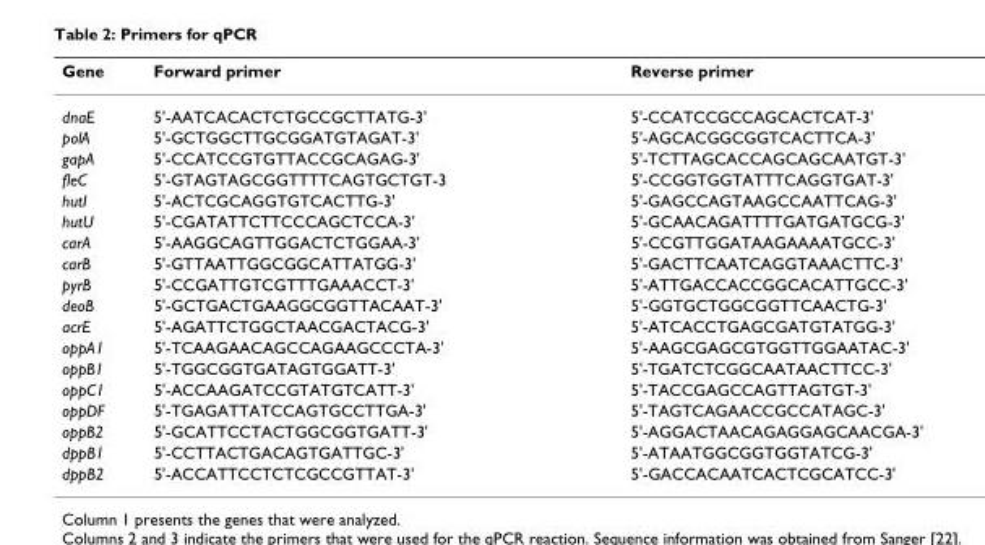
<table><thead><tr><td>Gene</td><td>Forward primer</td><td>Reverse primer</td></tr></thead><tbody><tr><td>dnaE</td><td>5&#x27;-AATCACACTCTGCCGCTTATG-3&#x27;</td><td>5&#x27;-CCATCCGCCAGCACTCAT-3&#x27;</td></tr><tr><td>polA</td><td>5&#x27;-GCTGGCTTGCGGATGTAGAT-3&#x27;</td><td>5&#x27;-AGCACGGCGGTCACTTCA-3&#x27;</td></tr><tr><td>gapA</td><td>5&#x27;-CCATCCGTGTTACCGCAGAG-3&#x27;</td><td>5&#x27;-TCTTAGCACCAGCAGCAATGT-3&#x27;</td></tr><tr><td>fleC</td><td>5&#x27;-GTAGTAGCGGTTTTCAGTGCTGT-3</td><td>5&#x27;-CCGGTGGTATTTCAGGTGAT-3&#x27;</td></tr><tr><td>hutI</td><td>5&#x27;-ACTCGCAGGTGTCACTTG-3&#x27;</td><td>5&#x27;-GAGCCAGTAAGCCAATTCAG-3&#x27;</td></tr><tr><td>hutU</td><td>5&#x27;-CGATATTCTTCCCAGCTCCA-3&#x27;</td><td>5&#x27;-GCAACAGATTTTGATGATGCG-3&#x27;</td></tr><tr><td>carA</td><td>5&#x27;-AAGGCAGTTGGACTCTGGAA-3&#x27;</td><td>5&#x27;-CCGTTGGATAAGAAAATGCC-3&#x27;</td></tr><tr><td>carB</td><td>5&#x27;-GTTAATTGGCGGCATTATGG-3&#x27;</td><td>5&#x27;-GACTTCAATCAGGTAAACTTC-3&#x27;</td></tr><tr><td>pyrB</td><td>5&#x27;-CCGATTGTCGTTTGAAACCT-3&#x27;</td><td>5&#x27;-ATTGACCACCGGCACATTGCC-3&#x27;</td></tr><tr><td>deoB</td><td>5&#x27;-GCTGACTGAAGGCGGTTACAAT-3&#x27;</td><td>5&#x27;-GGTGCTGGCGGTTCAACTG-3&#x27;</td></tr><tr><td>acrE</td><td>5&#x27;-AGATTCTGGCTAACGACTACG-3&#x27;</td><td>5&#x27;-ATCACCTGAGCGATGTATGG-3&#x27;</td></tr><tr><td>oppA1</td><td>5&#x27;-TCAAGAACAGCCAGAAGCCCTA-3&#x27;</td><td>5&#x27;-AAGCGAGCGTGGTTGGAATAC-3&#x27;</td></tr><tr><td>oppB1</td><td>5&#x27;-TGGCGGTGATAGTGGATT-3&#x27;</td><td>5&#x27;-TGATCTCGGCAATAACTTCC-3&#x27;</td></tr><tr><td>oppC1</td><td>5&#x27;-ACCAAGATCCGTATGTCATT-3&#x27;</td><td>5&#x27;-TACCGAGCCAGTTAGTGT-3&#x27;</td></tr><tr><td>oppDF</td><td>5&#x27;-TGAGATTATCCAGTGCCTTGA-3&#x27;</td><td>5&#x27;-TAGTCAGAACCGCCATAGC-3&#x27;</td></tr><tr><td>oppB2</td><td>5&#x27;-GCATTCCTACTGGCGGTGATT-3&#x27;</td><td>5&#x27;-AGGACTAACAGAGGAGCAACGA-3&#x27;</td></tr><tr><td>dppB1</td><td>5&#x27;-CCTTACTGACAGTGATTGC-3&#x27;</td><td>5&#x27;-ATAATGGCGGTGGTATCG-3&#x27;</td></tr><tr><td>dppB2</td><td>5&#x27;-ACCATTCCTCTCGCCGTTAT-3&#x27;</td><td>5&#x27;-GACCACAATCACTCGCATCC-3&#x27;</td></tr></tbody></table>